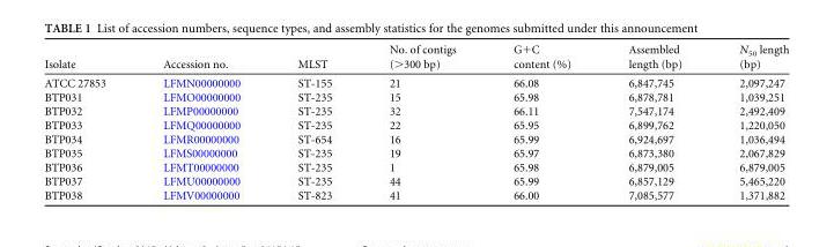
<table><thead><tr><td>Isolate</td><td>Accession no.</td><td>MLST</td><td>No. of contigs (&gt;300 bp)</td><td>G+C content (%)</td><td>Assembled length (bp)</td><td>N<sub>50</sub> length (bp)</td></tr></thead><tbody><tr><td>ATCC 27853</td><td>LFMN00000000</td><td>ST-155</td><td>21</td><td>66.08</td><td>6,847,745</td><td>2,097,247</td></tr><tr><td>BTP031</td><td>LFMO00000000</td><td>ST-235</td><td>15</td><td>65.98</td><td>6,878,781</td><td>1,039,251</td></tr><tr><td>BTP032</td><td>LFMP00000000</td><td>ST-235</td><td>32</td><td>66.11</td><td>7,547,174</td><td>2,492,409</td></tr><tr><td>BTP033</td><td>LFMQ00000000</td><td>ST-235</td><td>22</td><td>65.95</td><td>6,899,762</td><td>1,220,050</td></tr><tr><td>BTP034</td><td>LFMR00000000</td><td>ST-654</td><td>16</td><td>65.99</td><td>6,924,697</td><td>1,036,494</td></tr><tr><td>BTP035</td><td>LFMS00000000</td><td>ST-235</td><td>19</td><td>65.97</td><td>6,873,380</td><td>2,067,829</td></tr><tr><td>BTP036</td><td>LFMT00000000</td><td>ST-235</td><td>1</td><td>65.98</td><td>6,879,005</td><td>6,879,005</td></tr><tr><td>BTP037</td><td>LFMU00000000</td><td>ST-235</td><td>44</td><td>65.99</td><td>6,857,129</td><td>5,465,220</td></tr><tr><td>BTP038</td><td>LFMV00000000</td><td>ST-823</td><td>41</td><td>66.00</td><td>7,085,577</td><td>1,371,882</td></tr></tbody></table>